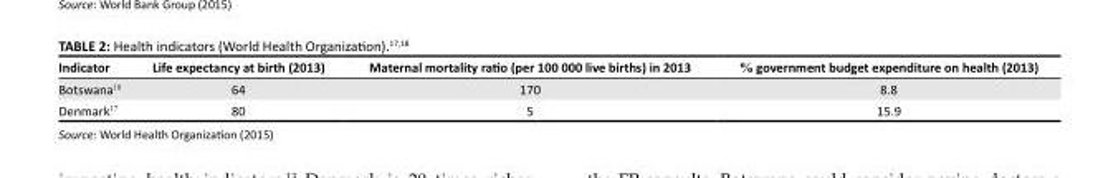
<table><thead><tr><td>Indicator</td><td>Life expectancy at birth (2013)</td><td>Maternal mortality ratio (per 100 000 live births) in 2013</td><td>% government budget expenditure on health (2013)</td></tr></thead><tbody><tr><td>Botswana<sup>18</sup></td><td>64</td><td>170</td><td>8.8</td></tr><tr><td>Denmark<sup>17</sup></td><td>80</td><td>5</td><td>15.9</td></tr></tbody></table>